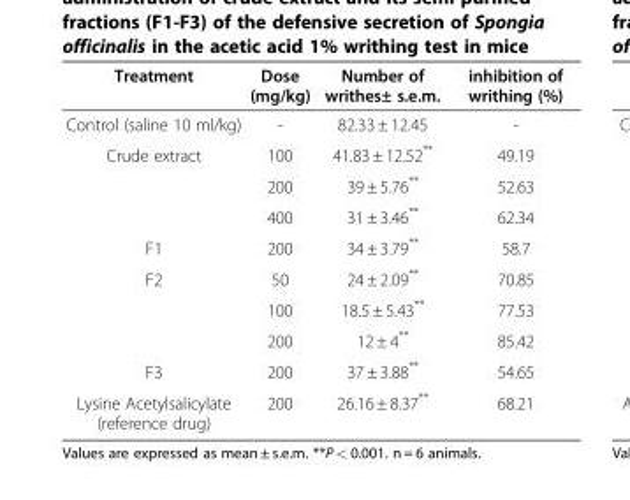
<table><thead><tr><td>Treatment</td><td>Dose (mg/kg)</td><td>Number of writhes± s.e.m.</td><td>inhibition of writhing (%)</td></tr></thead><tbody><tr><td>Control (saline 10 ml/kg)</td><td>-</td><td>82.33 ± 12.45</td><td>-</td></tr><tr><td rowspan="3">Crude extract</td><td>100</td><td>41.83 ± 12.52**</td><td>49.19</td></tr><tr><td>200</td><td>39 ± 5.76**</td><td>52.63</td></tr><tr><td>400</td><td>31 ± 3.46**</td><td>62.34</td></tr><tr><td>F1</td><td>200</td><td>34 ± 3.79**</td><td>58.7</td></tr><tr><td rowspan="3">F2</td><td>50</td><td>24 ± 2.09**</td><td>70.85</td></tr><tr><td>100</td><td>18.5 ± 5.43**</td><td>77.53</td></tr><tr><td>200</td><td>12 ± 4**</td><td>85.42</td></tr><tr><td>F3</td><td>200</td><td>37 ± 3.88**</td><td>54.65</td></tr><tr><td>Lysine Acetylsalicylate (reference drug)</td><td>200</td><td>26.16 ± 8.37**</td><td>68.21</td></tr></tbody></table>